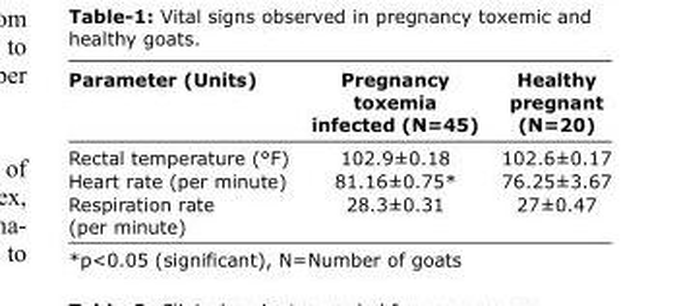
<table><thead><tr><td>Parameter (Units)</td><td>Pregnancy toxemia infected (N=45)</td><td>Healthy pregnant (N=20)</td></tr></thead><tbody><tr><td>Rectal temperature (°F)</td><td>102.9±0.18</td><td>102.6±0.17</td></tr><tr><td>Heart rate (per minute)</td><td>81.16±0.75*</td><td>76.25±3.67</td></tr><tr><td>Respiration rate (per minute)</td><td>28.3±0.31</td><td>27±0.47</td></tr></tbody></table>